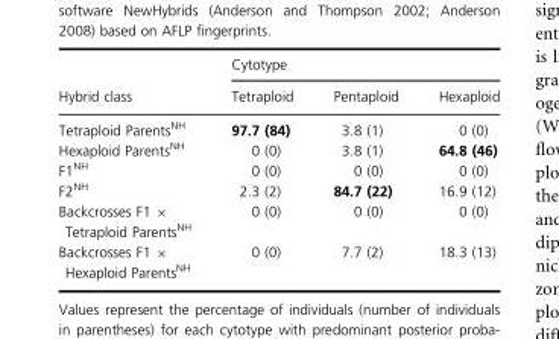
<table><thead><tr><td rowspan="2">Hybrid class</td><td colspan="3">Cytotype</td></tr><tr><td>Tetraploid</td><td>Pentaploid</td><td>Hexaploid</td></tr></thead><tbody><tr><td>Tetraploid Parents<sup>NH</sup></td><td>97.7 (84)</td><td>3.8 (1)</td><td>0 (0)</td></tr><tr><td>Hexaploid Parents<sup>NH</sup></td><td>0 (0)</td><td>3.8 (1)</td><td>64.8 (46)</td></tr><tr><td>F1<sup>NH</sup></td><td>0 (0)</td><td>0 (0)</td><td>0 (0)</td></tr><tr><td>F2<sup>NH</sup></td><td>2.3 (2)</td><td>84.7 (22)</td><td>16.9 (12)</td></tr><tr><td>Backcrosses F1 × Tetraploid Parents<sup>NH</sup></td><td>0 (0)</td><td>0 (0)</td><td>0 (0)</td></tr><tr><td>Backcrosses F1 × Hexaploid Parents<sup>NH</sup></td><td>0 (0)</td><td>7.7 (2)</td><td>18.3 (13)</td></tr></tbody></table>